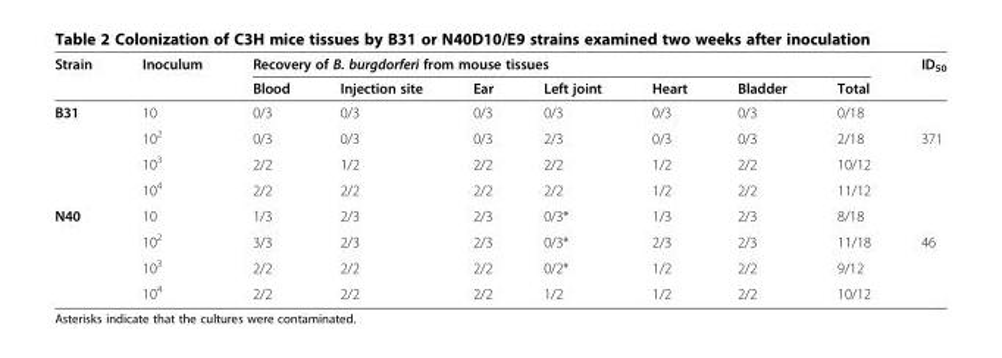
<table><thead><tr><td rowspan="2">Strain</td><td rowspan="2">Inoculum</td><td colspan="7">Recovery of B. burgdorferi from mouse tissues</td><td rowspan="2">ID<sub>50</sub></td></tr><tr><td>Blood</td><td>Injection site</td><td>Ear</td><td>Left joint</td><td>Heart</td><td>Bladder</td><td>Total</td></tr></thead><tbody><tr><td rowspan="4">B31</td><td>10</td><td>0/3</td><td>0/3</td><td>0/3</td><td>0/3</td><td>0/3</td><td>0/3</td><td>0/18</td><td></td></tr><tr><td>10<sup>2</sup></td><td>0/3</td><td>0/3</td><td>0/3</td><td>2/3</td><td>0/3</td><td>0/3</td><td>2/18</td><td>371</td></tr><tr><td>10<sup>3</sup></td><td>2/2</td><td>1/2</td><td>2/2</td><td>2/2</td><td>1/2</td><td>2/2</td><td>10/12</td><td></td></tr><tr><td>10<sup>4</sup></td><td>2/2</td><td>2/2</td><td>2/2</td><td>2/2</td><td>1/2</td><td>2/2</td><td>11/12</td><td></td></tr><tr><td rowspan="4">N40</td><td>10</td><td>1/3</td><td>2/3</td><td>2/3</td><td>0/3*</td><td>1/3</td><td>2/3</td><td>8/18</td><td></td></tr><tr><td>10<sup>2</sup></td><td>3/3</td><td>2/3</td><td>2/3</td><td>0/3*</td><td>2/3</td><td>2/3</td><td>11/18</td><td>46</td></tr><tr><td>10<sup>3</sup></td><td>2/2</td><td>2/2</td><td>2/2</td><td>0/2*</td><td>1/2</td><td>2/2</td><td>9/12</td><td></td></tr><tr><td>10<sup>4</sup></td><td>2/2</td><td>2/2</td><td>2/2</td><td>1/2</td><td>1/2</td><td>2/2</td><td>10/12</td><td></td></tr></tbody></table>